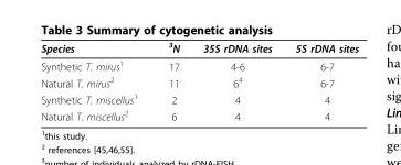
<table><thead><tr><td>Species</td><td><sup>3</sup>N</td><td>35S rDNA sites</td><td>5S rDNA sites</td></tr></thead><tbody><tr><td>Synthetic T. mirus<sup>1</sup></td><td>17</td><td>4-6</td><td>6-7</td></tr><tr><td>Natural T. mirus<sup>2</sup></td><td>11</td><td>6<sup>4</sup></td><td>6-7</td></tr><tr><td>Synthetic T. miscellus<sup>1</sup></td><td>2</td><td>4</td><td>4</td></tr><tr><td>Natural T. miscellus<sup>2</sup></td><td>6</td><td>4</td><td>4</td></tr></tbody></table>